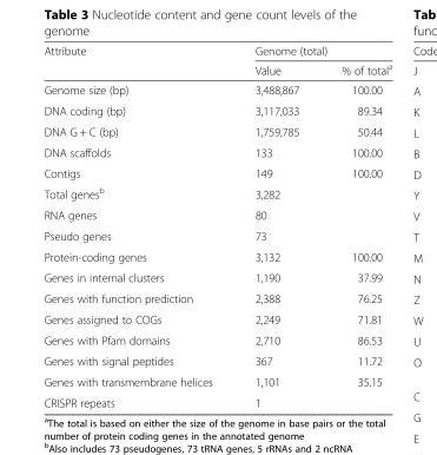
<table><thead><tr><td rowspan="2">Attribute</td><td colspan="2">Genome (total)</td></tr><tr><td>Value</td><td>% of total<sup>a</sup></td></tr></thead><tbody><tr><td>Genome size (bp)</td><td>3,488,867</td><td>100.00</td></tr><tr><td>DNA coding (bp)</td><td>3,117,033</td><td>89.34</td></tr><tr><td>DNA G + C (bp)</td><td>1,759,785</td><td>50.44</td></tr><tr><td>DNA scaffolds</td><td>133</td><td>100.00</td></tr><tr><td>Contigs</td><td>149</td><td>100.00</td></tr><tr><td>Total genes<sup>b</sup></td><td>3,282</td><td></td></tr><tr><td>RNA genes</td><td>80</td><td></td></tr><tr><td>Pseudo genes</td><td>73</td><td></td></tr><tr><td>Protein-coding genes</td><td>3,132</td><td>100.00</td></tr><tr><td>Genes in internal clusters</td><td>1,190</td><td>37.99</td></tr><tr><td>Genes with function prediction</td><td>2,388</td><td>76.25</td></tr><tr><td>Genes assigned to COGs</td><td>2,249</td><td>71.81</td></tr><tr><td>Genes with Pfam domains</td><td>2,710</td><td>86.53</td></tr><tr><td>Genes with signal peptides</td><td>367</td><td>11.72</td></tr><tr><td>Genes with transmembrane helices</td><td>1,101</td><td>35.15</td></tr><tr><td>CRISPR repeats</td><td>1</td><td></td></tr></tbody></table>